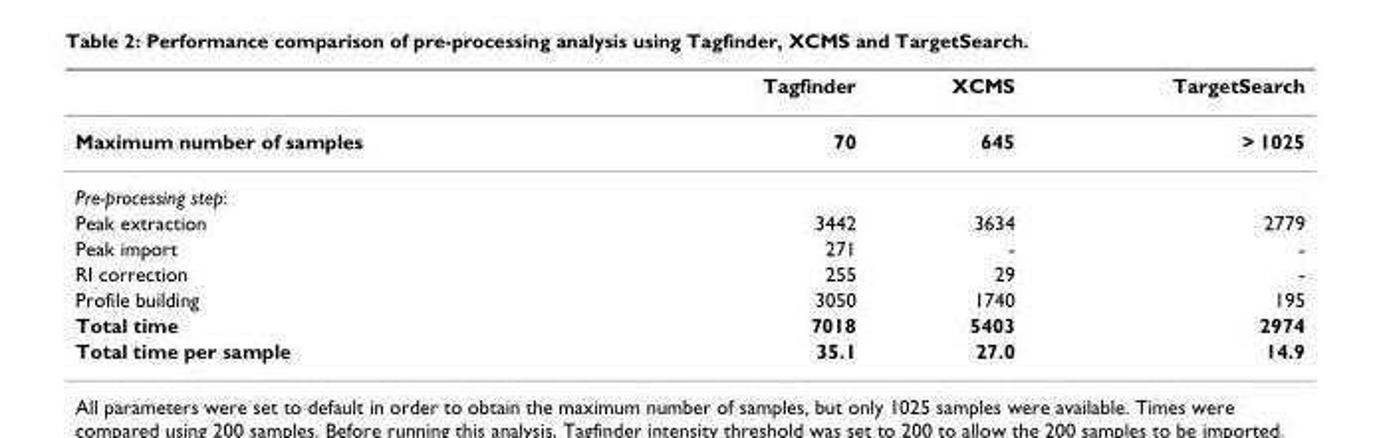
<table><thead><tr><td></td><td>Tagfinder</td><td>XCMS</td><td>TargetSearch</td></tr></thead><tbody><tr><td>Maximum number of samples</td><td>70</td><td>645</td><td>&gt; 1025</td></tr><tr><td colspan="4">Pre-processing step:</td></tr><tr><td>Peak extraction</td><td>3442</td><td>3634</td><td>2779</td></tr><tr><td>Peak import</td><td>271</td><td>-</td><td>-</td></tr><tr><td>RI correction</td><td>255</td><td>29</td><td>-</td></tr><tr><td>Profile building</td><td>3050</td><td>1740</td><td>195</td></tr><tr><td>Total time</td><td>7018</td><td>5403</td><td>2974</td></tr><tr><td>Total time per sample</td><td>35.1</td><td>27.0</td><td>14.9</td></tr></tbody></table>